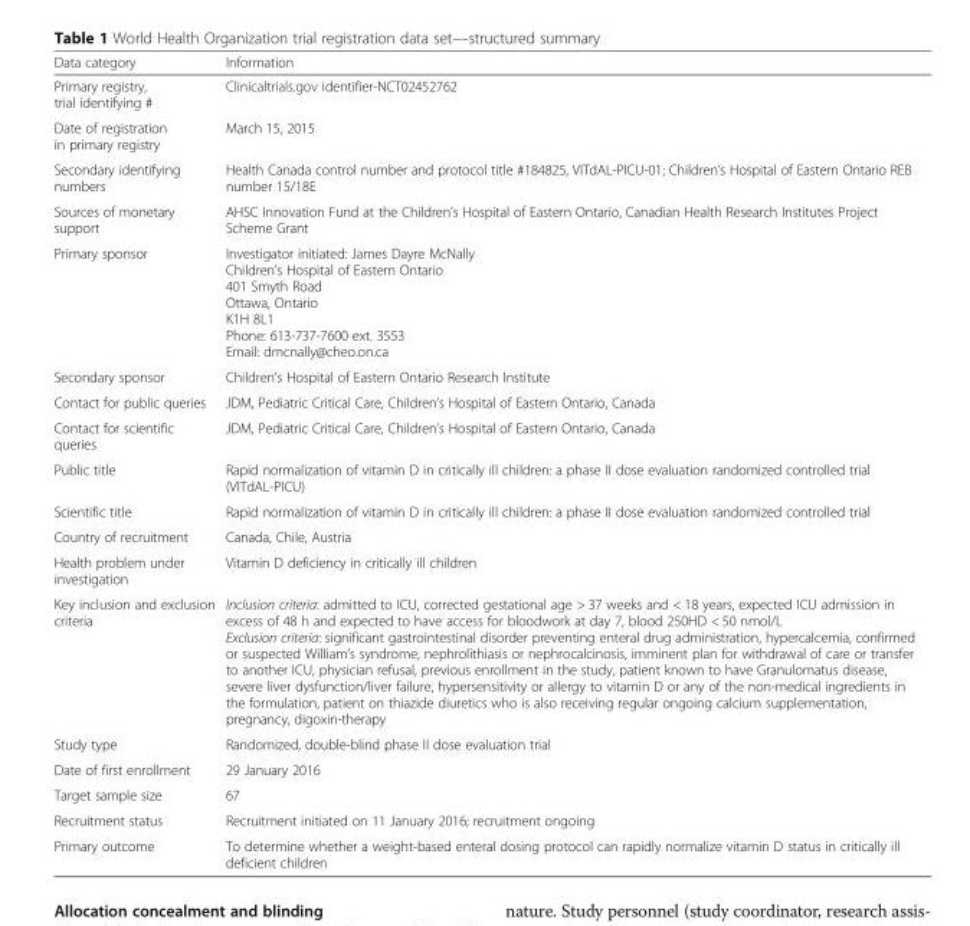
<table><thead><tr><td>Data category</td><td>Information</td></tr></thead><tbody><tr><td>Primary registry, trial identifying #</td><td>Clinicaltrials.gov identifier-NCT02452762</td></tr><tr><td>Date of registration in primary registry</td><td>March 15, 2015</td></tr><tr><td>Secondary identifying numbers</td><td>Health Canada control number and protocol title #184825, VITdAL-PICU-01; Children’s Hospital of Eastern Ontario REB number 15/18E</td></tr><tr><td>Sources of monetary support</td><td>AHSC Innovation Fund at the Children’s Hospital of Eastern Ontario, Canadian Health Research Institutes Project Scheme Grant</td></tr><tr><td>Primary sponsor</td><td>Investigator initiated: James Dayre McNally Children’s Hospital of Eastern Ontario 401 Smyth Road Ottawa, Ontario K1H 8L1 Phone: 613-737-7600 ext. 3553 Email: dmcnally@cheo.on.ca</td></tr><tr><td>Secondary sponsor</td><td>Children’s Hospital of Eastern Ontario Research Institute</td></tr><tr><td>Contact for public queries</td><td>JDM, Pediatric Critical Care, Children’s Hospital of Eastern Ontario, Canada</td></tr><tr><td>Contact for scientific queries</td><td>JDM, Pediatric Critical Care, Children’s Hospital of Eastern Ontario, Canada</td></tr><tr><td>Public title</td><td>Rapid normalization of vitamin D in critically ill children: a phase II dose evaluation randomized controlled trial (VITdAL-PICU)</td></tr><tr><td>Scientific title</td><td>Rapid normalization of vitamin D in critically ill children: a phase II dose evaluation randomized controlled trial</td></tr><tr><td>Country of recruitment</td><td>Canada, Chile, Austria</td></tr><tr><td>Health problem under investigation</td><td>Vitamin D deficiency in critically ill children</td></tr><tr><td>Key inclusion and exclusion criteria</td><td>Inclusion criteria: admitted to ICU, corrected gestational age &gt; 37 weeks and &lt; 18 years, expected ICU admission in excess of 48 h and expected to have access for bloodwork at day 7, blood 250HD &lt; 50 nmol/L Exclusion criteria: significant gastrointestinal disorder preventing enteral drug administration, hypercalcemia, confirmed or suspected William’s syndrome, nephrolithiasis or nephrocalcinosis, imminent plan for withdrawal of care or transfer to another ICU, physician refusal, previous enrollment in the study, patient known to have Granulomatus disease, severe liver dysfunction/liver failure, hypersensitivity or allergy to vitamin D or any of the non-medical ingredients in the formulation, patient on thiazide diuretics who is also receiving regular ongoing calcium supplementation, pregnancy, digoxin-therapy</td></tr><tr><td>Study type</td><td>Randomized, double-blind phase II dose evaluation trial</td></tr><tr><td>Date of first enrollment</td><td>29 January 2016</td></tr><tr><td>Target sample size</td><td>67</td></tr><tr><td>Recruitment status</td><td>Recruitment initiated on 11 January 2016; recruitment ongoing</td></tr><tr><td>Primary outcome</td><td>To determine whether a weight-based enteral dosing protocol can rapidly normalize vitamin D status in critically ill deficient children</td></tr></tbody></table>